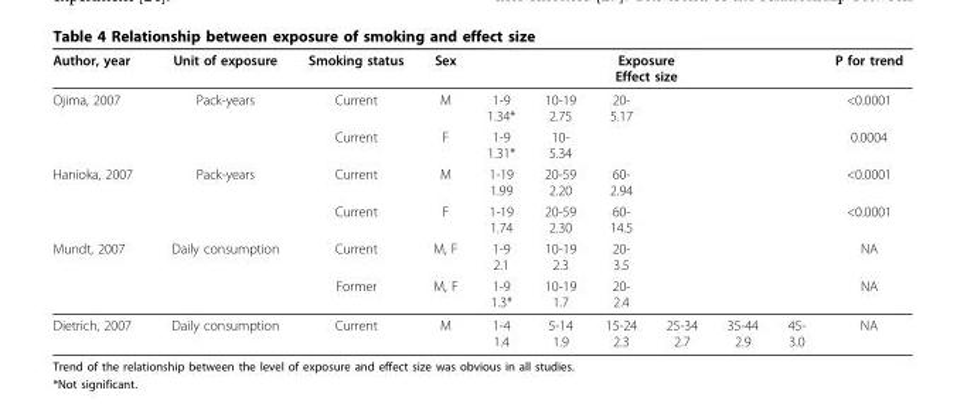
<table><thead><tr><td rowspan="2">Author, year Ojima, 2007</td><td rowspan="2">Unit of exposure Pack-years</td><td rowspan="2">Smoking status Current</td><td rowspan="2">Sex M</td><td colspan="6">Exposure Effect size</td><td rowspan="2">P for trend &lt;0.0001</td></tr><tr><td>1-9 1.34*</td><td>10-19 2.75</td><td>20- 5.17</td><td></td><td></td><td></td></tr></thead><tbody><tr><td></td><td></td><td>Current</td><td>F</td><td>1-9 1.31*</td><td>10- 5.34</td><td></td><td></td><td></td><td></td><td>0.0004</td></tr><tr><td rowspan="2">Hanioka, 2007</td><td>Pack-years</td><td>Current</td><td>M</td><td>1-19 1.99</td><td>20-59 2.20</td><td>60- 2.94</td><td></td><td></td><td></td><td>&lt;0.0001</td></tr><tr><td></td><td>Current</td><td>F</td><td>1-19 1.74</td><td>20-59 2.30</td><td>60- 14.5</td><td></td><td></td><td></td><td>&lt;0.0001</td></tr><tr><td rowspan="2">Mundt, 2007</td><td>Daily consumption</td><td>Current</td><td>M, F</td><td>1-9 2.1</td><td>10-19 2.3</td><td>20- 3.5</td><td></td><td></td><td></td><td>NA</td></tr><tr><td></td><td>Former</td><td>M, F</td><td>1-9 1.3*</td><td>10-19 1.7</td><td>20- 2.4</td><td></td><td></td><td></td><td>NA</td></tr><tr><td>Dietrich, 2007</td><td>Daily consumption</td><td>Current</td><td>M</td><td>1-4 1.4</td><td>5-14 1.9</td><td>15-24 2.3</td><td>25-34 2.7</td><td>35-44 2.9</td><td>45- 3.0</td><td>NA</td></tr></tbody></table>